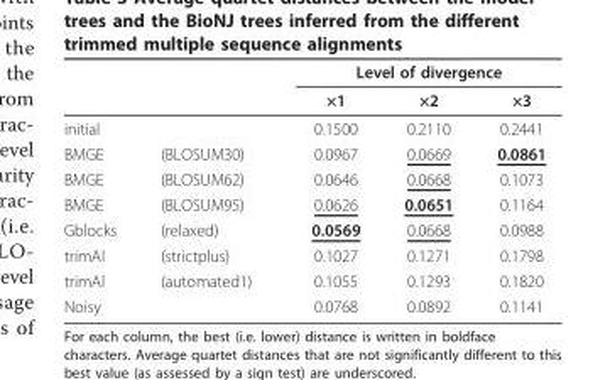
<table><thead><tr><td rowspan="2"></td><td rowspan="2"></td><td colspan="3">Level of divergence</td></tr><tr><td>×1</td><td>×2</td><td>×3</td></tr></thead><tbody><tr><td>initial</td><td></td><td>0.1500</td><td>0.2110</td><td>0.2441</td></tr><tr><td>BMGE</td><td>(BLOSUM30)</td><td>0.0967</td><td>0.0669</td><td>0.0861</td></tr><tr><td>BMGE</td><td>(BLOSUM62)</td><td>0.0646</td><td>0.0668</td><td>0.1073</td></tr><tr><td>BMGE</td><td>(BLOSUM95)</td><td>0.0626</td><td>0.0651</td><td>0.1164</td></tr><tr><td>Gblocks</td><td>(relaxed)</td><td>0.0569</td><td>0.0668</td><td>0.0988</td></tr><tr><td>trimAl</td><td>(strictplus)</td><td>0.1027</td><td>0.1271</td><td>0.1798</td></tr><tr><td>trimAl</td><td>(automated1)</td><td>0.1055</td><td>0.1293</td><td>0.1820</td></tr><tr><td>Noisy</td><td></td><td>0.0768</td><td>0.0892</td><td>0.1141</td></tr></tbody></table>